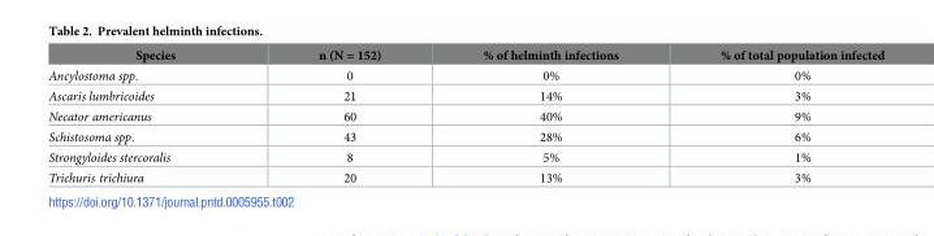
<table><thead><tr><td>Species</td><td>n (N = 152)</td><td>% of helminth infections</td><td>% of total population infected</td></tr></thead><tbody><tr><td>Ancylostoma spp.</td><td>0</td><td>0%</td><td>0%</td></tr><tr><td>Ascaris lumbricoides</td><td>21</td><td>14%</td><td>3%</td></tr><tr><td>Necator americanus</td><td>60</td><td>40%</td><td>9%</td></tr><tr><td>Schistosoma spp.</td><td>43</td><td>28%</td><td>6%</td></tr><tr><td>Strongyloides stercoralis</td><td>8</td><td>5%</td><td>1%</td></tr><tr><td>Trichuris trichiura</td><td>20</td><td>13%</td><td>3%</td></tr></tbody></table>